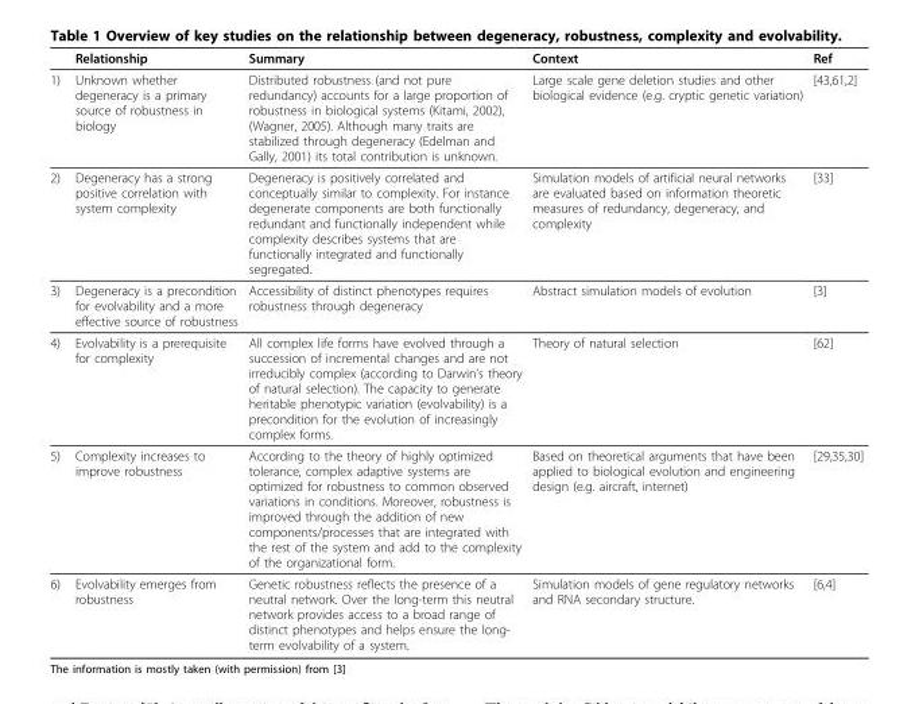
<table><thead><tr><td></td><td>Relationship</td><td>Summary</td><td>Context</td><td>Ref</td></tr></thead><tbody><tr><td>1)</td><td>Unknown whether degeneracy is a primary source of robustness in biology</td><td>Distributed robustness (and not pure redundancy) accounts for a large proportion of robustness in biological systems (Kitami, 2002), (Wagner, 2005). Although many traits are stabilized through degeneracy (Edelman and Gally, 2001) its total contribution is unknown.</td><td>Large scale gene deletion studies and other biological evidence (e.g. cryptic genetic variation)</td><td>[43,61,2]</td></tr><tr><td>2)</td><td>Degeneracy has a strong positive correlation with system complexity</td><td>Degeneracy is positively correlated and conceptually similar to complexity. For instance degenerate components are both functionally redundant and functionally independent while complexity describes systems that are functionally integrated and functionally segregated.</td><td>Simulation models of artificial neural networks are evaluated based on information theoretic measures of redundancy, degeneracy, and complexity</td><td>[33]</td></tr><tr><td>3)</td><td>Degeneracy is a precondition for evolvability and a more effective source of robustness</td><td>Accessibility of distinct phenotypes requires robustness through degeneracy</td><td>Abstract simulation models of evolution</td><td>[3]</td></tr><tr><td>4)</td><td>Evolvability is a prerequisite for complexity</td><td>All complex life forms have evolved through a succession of incremental changes and are not irreducibly complex (according to Darwin’s theory of natural selection). The capacity to generate heritable phenotypic variation (evolvability) is a precondition for the evolution of increasingly complex forms.</td><td>Theory of natural selection</td><td>[62]</td></tr><tr><td>5)</td><td>Complexity increases to improve robustness</td><td>According to the theory of highly optimized tolerance, complex adaptive systems are optimized for robustness to common observed variations in conditions. Moreover, robustness is improved through the addition of new components/processes that are integrated with the rest of the system and add to the complexity of the organizational form.</td><td>Based on theoretical arguments that have been applied to biological evolution and engineering design (e.g. aircraft, internet)</td><td>[29,35,30]</td></tr><tr><td>6)</td><td>Evolvability emerges from robustness</td><td>Genetic robustness reflects the presence of a neutral network. Over the long-term this neutral network provides access to a broad range of distinct phenotypes and helps ensure the long- term evolvability of a system.</td><td>Simulation models of gene regulatory networks and RNA secondary structure.</td><td>[6,4]</td></tr></tbody></table>